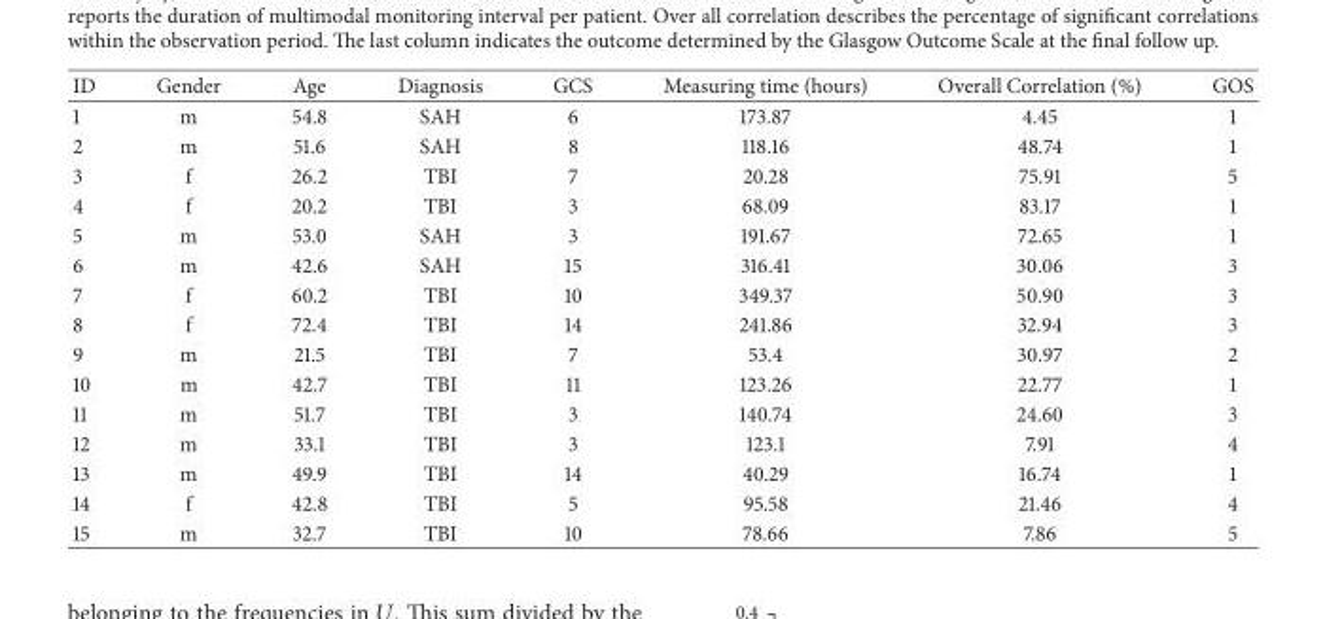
<table><thead><tr><td>ID</td><td>Gender</td><td>Age</td><td>Diagnosis</td><td>GCS</td><td>Measuring time (hours)</td><td>Overall Correlation (%)</td><td>GOS</td></tr></thead><tbody><tr><td>1</td><td>m</td><td>54.8</td><td>SAH</td><td>6</td><td>173.87</td><td>4.45</td><td>1</td></tr><tr><td>2</td><td>m</td><td>51.6</td><td>SAH</td><td>8</td><td>118.16</td><td>48.74</td><td>1</td></tr><tr><td>3</td><td>f</td><td>26.2</td><td>TBI</td><td>7</td><td>20.28</td><td>75.91</td><td>5</td></tr><tr><td>4</td><td>f</td><td>20.2</td><td>TBI</td><td>3</td><td>68.09</td><td>83.17</td><td>1</td></tr><tr><td>5</td><td>m</td><td>53.0</td><td>SAH</td><td>3</td><td>191.67</td><td>72.65</td><td>1</td></tr><tr><td>6</td><td>m</td><td>42.6</td><td>SAH</td><td>15</td><td>316.41</td><td>30.06</td><td>3</td></tr><tr><td>7</td><td>f</td><td>60.2</td><td>TBI</td><td>10</td><td>349.37</td><td>50.90</td><td>3</td></tr><tr><td>8</td><td>f</td><td>72.4</td><td>TBI</td><td>14</td><td>241.86</td><td>32.94</td><td>3</td></tr><tr><td>9</td><td>m</td><td>21.5</td><td>TBI</td><td>7</td><td>53.4</td><td>30.97</td><td>2</td></tr><tr><td>10</td><td>m</td><td>42.7</td><td>TBI</td><td>11</td><td>123.26</td><td>22.77</td><td>1</td></tr><tr><td>11</td><td>m</td><td>51.7</td><td>TBI</td><td>3</td><td>140.74</td><td>24.60</td><td>3</td></tr><tr><td>12</td><td>m</td><td>33.1</td><td>TBI</td><td>3</td><td>123.1</td><td>7.91</td><td>4</td></tr><tr><td>13</td><td>m</td><td>49.9</td><td>TBI</td><td>14</td><td>40.29</td><td>16.74</td><td>1</td></tr><tr><td>14</td><td>f</td><td>42.8</td><td>TBI</td><td>5</td><td>95.58</td><td>21.46</td><td>4</td></tr><tr><td>15</td><td>m</td><td>32.7</td><td>TBI</td><td>10</td><td>78.66</td><td>7.86</td><td>5</td></tr></tbody></table>